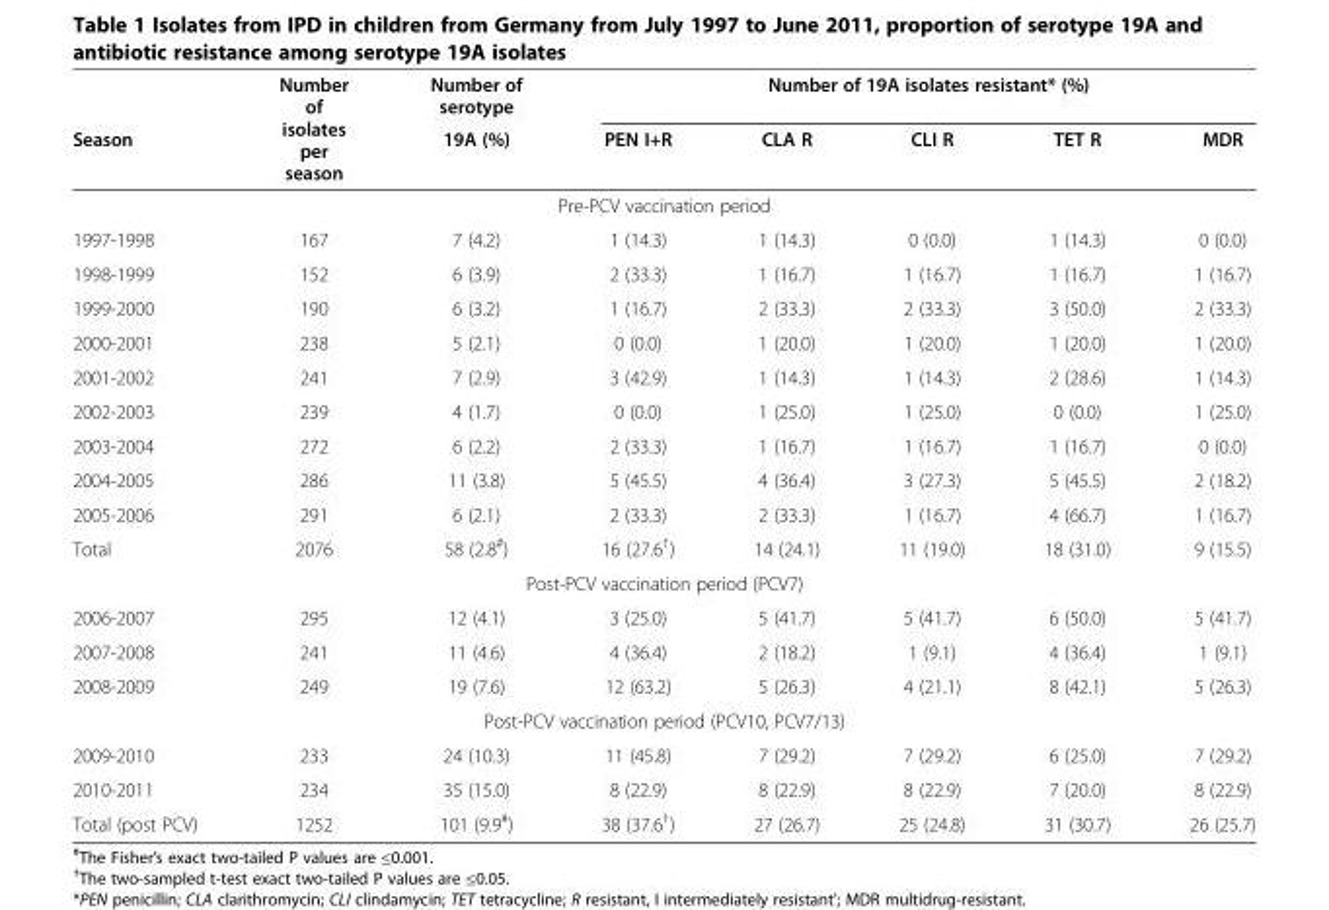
<table><thead><tr><td rowspan="2">Season</td><td rowspan="2">Number of isolates per season</td><td rowspan="2">Number of serotype 19A (%)</td><td colspan="5">Number of 19A isolates resistant* (%)</td></tr><tr><td>PEN I+R</td><td>CLA R</td><td>CLI R</td><td>TET R</td><td>MDR</td></tr></thead><tbody><tr><td colspan="8">Pre-PCV vaccination period</td></tr><tr><td>1997-1998</td><td>167</td><td>7 (4.2)</td><td>1 (14.3)</td><td>1 (14.3)</td><td>0 (0.0)</td><td>1 (14.3)</td><td>0 (0.0)</td></tr><tr><td>1998-1999</td><td>152</td><td>6 (3.9)</td><td>2 (33.3)</td><td>1 (16.7)</td><td>1 (16.7)</td><td>1 (16.7)</td><td>1 (16.7)</td></tr><tr><td>1999-2000</td><td>190</td><td>6 (3.2)</td><td>1 (16.7)</td><td>2 (33.3)</td><td>2 (33.3)</td><td>3 (50.0)</td><td>2 (33.3)</td></tr><tr><td>2000-2001</td><td>238</td><td>5 (2.1)</td><td>0 (0.0)</td><td>1 (20.0)</td><td>1 (20.0)</td><td>1 (20.0)</td><td>1 (20.0)</td></tr><tr><td>2001-2002</td><td>241</td><td>7 (2.9)</td><td>3 (42.9)</td><td>1 (14.3)</td><td>1 (14.3)</td><td>2 (28.6)</td><td>1 (14.3)</td></tr><tr><td>2002-2003</td><td>239</td><td>4 (1.7)</td><td>0 (0.0)</td><td>1 (25.0)</td><td>1 (25.0)</td><td>0 (0.0)</td><td>1 (25.0)</td></tr><tr><td>2003-2004</td><td>272</td><td>6 (2.2)</td><td>2 (33.3)</td><td>1 (16.7)</td><td>1 (16.7)</td><td>1 (16.7)</td><td>0 (0.0)</td></tr><tr><td>2004-2005</td><td>286</td><td>11 (3.8)</td><td>5 (45.5)</td><td>4 (36.4)</td><td>3 (27.3)</td><td>5 (45.5)</td><td>2 (18.2)</td></tr><tr><td>2005-2006</td><td>291</td><td>6 (2.1)</td><td>2 (33.3)</td><td>2 (33.3)</td><td>1 (16.7)</td><td>4 (66.7)</td><td>1 (16.7)</td></tr><tr><td>Total</td><td>2076</td><td>58 (2.8<sup>#</sup>)</td><td>16 (27.6<sup>†</sup>)</td><td>14 (24.1)</td><td>11 (19.0)</td><td>18 (31.0)</td><td>9 (15.5)</td></tr><tr><td colspan="8">Post-PCV vaccination period (PCV7)</td></tr><tr><td>2006-2007</td><td>295</td><td>12 (4.1)</td><td>3 (25.0)</td><td>5 (41.7)</td><td>5 (41.7)</td><td>6 (50.0)</td><td>5 (41.7)</td></tr><tr><td>2007-2008</td><td>241</td><td>11 (4.6)</td><td>4 (36.4)</td><td>2 (18.2)</td><td>1 (9.1)</td><td>4 (36.4)</td><td>1 (9.1)</td></tr><tr><td>2008-2009</td><td>249</td><td>19 (7.6)</td><td>12 (63.2)</td><td>5 (26.3)</td><td>4 (21.1)</td><td>8 (42.1)</td><td>5 (26.3)</td></tr><tr><td colspan="8">Post-PCV vaccination period (PCV10, PCV7/13)</td></tr><tr><td>2009-2010</td><td>233</td><td>24 (10.3)</td><td>11 (45.8)</td><td>7 (29.2)</td><td>7 (29.2)</td><td>6 (25.0)</td><td>7 (29.2)</td></tr><tr><td>2010-2011</td><td>234</td><td>35 (15.0)</td><td>8 (22.9)</td><td>8 (22.9)</td><td>8 (22.9)</td><td>7 (20.0)</td><td>8 (22.9)</td></tr><tr><td>Total (post PCV)</td><td>1252</td><td>101 (9.9<sup>#</sup>)</td><td>38 (37.6<sup>†</sup>)</td><td>27 (26.7)</td><td>25 (24.8)</td><td>31 (30.7)</td><td>26 (25.7)</td></tr></tbody></table>